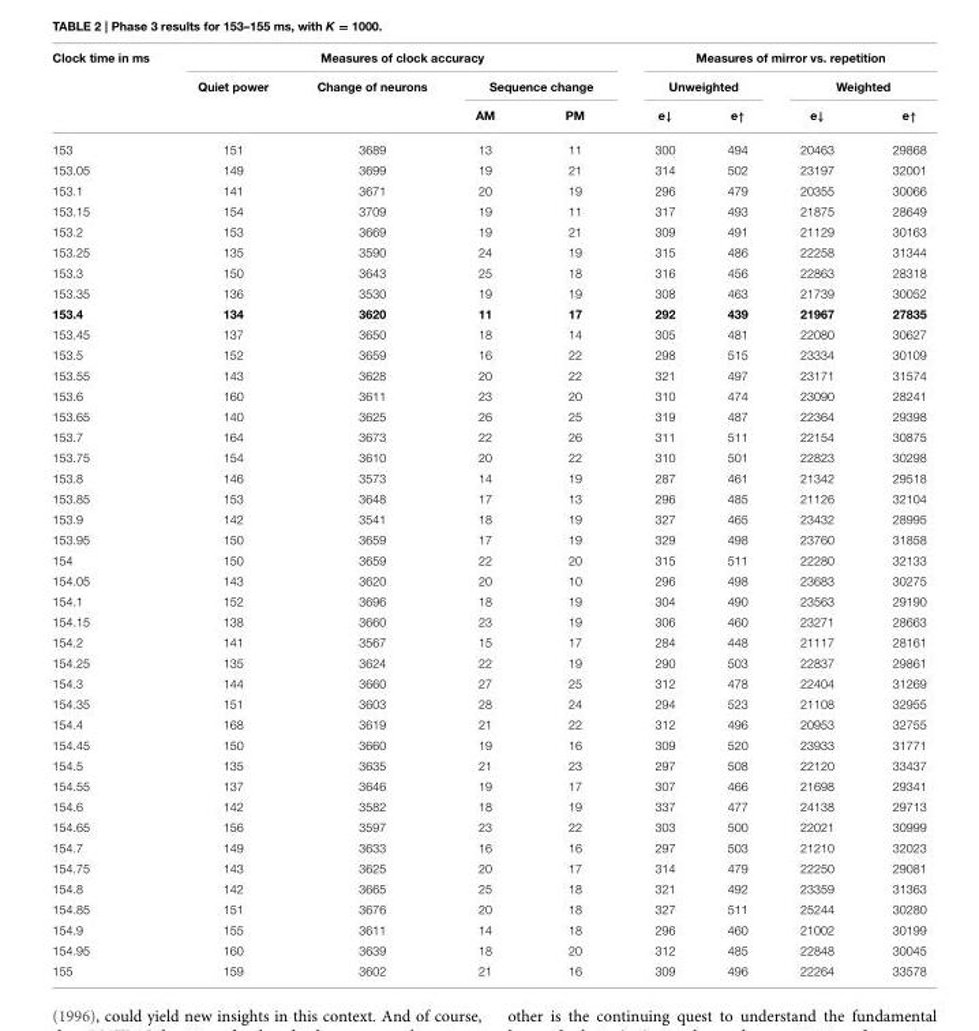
<table><thead><tr><td rowspan="3">Clock time in ms</td><td colspan="4">Measures of clock accuracy</td><td colspan="4">Measures of mirror vs. repetition</td></tr><tr><td rowspan="2">Quiet power</td><td rowspan="2">Change of neurons</td><td colspan="2">Sequence change</td><td colspan="2">Unweighted</td><td colspan="2">Weighted</td></tr><tr><td>AM</td><td>PM</td><td>e↓</td><td>e↑</td><td>e↓</td><td>e↑</td></tr></thead><tbody><tr><td>153</td><td>151</td><td>3689</td><td>13</td><td>11</td><td>300</td><td>494</td><td>20463</td><td>29868</td></tr><tr><td>153.05</td><td>149</td><td>3699</td><td>19</td><td>21</td><td>314</td><td>502</td><td>23197</td><td>32001</td></tr><tr><td>153.1</td><td>141</td><td>3671</td><td>20</td><td>19</td><td>296</td><td>479</td><td>20355</td><td>30066</td></tr><tr><td>153.15</td><td>154</td><td>3709</td><td>19</td><td>11</td><td>317</td><td>493</td><td>21875</td><td>28649</td></tr><tr><td>153.2</td><td>153</td><td>3669</td><td>19</td><td>21</td><td>309</td><td>491</td><td>21129</td><td>30163</td></tr><tr><td>153.25</td><td>135</td><td>3590</td><td>24</td><td>19</td><td>315</td><td>486</td><td>22258</td><td>31344</td></tr><tr><td>153.3</td><td>150</td><td>3643</td><td>25</td><td>18</td><td>316</td><td>456</td><td>22863</td><td>28318</td></tr><tr><td>153.35</td><td>136</td><td>3530</td><td>19</td><td>19</td><td>308</td><td>463</td><td>21739</td><td>30052</td></tr><tr><td>153.4</td><td>134</td><td>3620</td><td>11</td><td>17</td><td>292</td><td>439</td><td>21967</td><td>27835</td></tr><tr><td>153.45</td><td>137</td><td>3650</td><td>18</td><td>14</td><td>305</td><td>481</td><td>22080</td><td>30627</td></tr><tr><td>153.5</td><td>152</td><td>3659</td><td>16</td><td>22</td><td>298</td><td>515</td><td>23334</td><td>30109</td></tr><tr><td>153.55</td><td>143</td><td>3628</td><td>20</td><td>22</td><td>321</td><td>497</td><td>23171</td><td>31574</td></tr><tr><td>153.6</td><td>160</td><td>3611</td><td>23</td><td>20</td><td>310</td><td>474</td><td>23090</td><td>28241</td></tr><tr><td>153.65</td><td>140</td><td>3625</td><td>26</td><td>25</td><td>319</td><td>487</td><td>22364</td><td>29398</td></tr><tr><td>153.7</td><td>164</td><td>3673</td><td>22</td><td>26</td><td>311</td><td>511</td><td>22154</td><td>30875</td></tr><tr><td>153.75</td><td>154</td><td>3610</td><td>20</td><td>22</td><td>310</td><td>501</td><td>22823</td><td>30298</td></tr><tr><td>153.8</td><td>146</td><td>3573</td><td>14</td><td>19</td><td>287</td><td>461</td><td>21342</td><td>29518</td></tr><tr><td>153.85</td><td>153</td><td>3648</td><td>17</td><td>13</td><td>296</td><td>485</td><td>21126</td><td>32104</td></tr><tr><td>153.9</td><td>142</td><td>3541</td><td>18</td><td>19</td><td>327</td><td>465</td><td>23432</td><td>28995</td></tr><tr><td>153.95</td><td>150</td><td>3659</td><td>17</td><td>19</td><td>329</td><td>498</td><td>23760</td><td>31858</td></tr><tr><td>154</td><td>150</td><td>3659</td><td>22</td><td>20</td><td>315</td><td>511</td><td>22280</td><td>32133</td></tr><tr><td>154.05</td><td>143</td><td>3620</td><td>20</td><td>10</td><td>296</td><td>498</td><td>23683</td><td>30275</td></tr><tr><td>154.1</td><td>152</td><td>3696</td><td>18</td><td>19</td><td>304</td><td>490</td><td>23563</td><td>29190</td></tr><tr><td>154.15</td><td>138</td><td>3660</td><td>23</td><td>19</td><td>306</td><td>460</td><td>23271</td><td>28663</td></tr><tr><td>154.2</td><td>141</td><td>3567</td><td>15</td><td>17</td><td>284</td><td>448</td><td>21117</td><td>28161</td></tr><tr><td>154.25</td><td>135</td><td>3624</td><td>22</td><td>19</td><td>290</td><td>503</td><td>22837</td><td>29861</td></tr><tr><td>154.3</td><td>144</td><td>3660</td><td>27</td><td>25</td><td>312</td><td>478</td><td>22404</td><td>31269</td></tr><tr><td>154.35</td><td>151</td><td>3603</td><td>28</td><td>24</td><td>294</td><td>523</td><td>21108</td><td>32955</td></tr><tr><td>154.4</td><td>168</td><td>3619</td><td>21</td><td>22</td><td>312</td><td>496</td><td>20953</td><td>32755</td></tr><tr><td>154.45</td><td>150</td><td>3660</td><td>19</td><td>16</td><td>309</td><td>520</td><td>23933</td><td>31771</td></tr><tr><td>154.5</td><td>135</td><td>3635</td><td>21</td><td>23</td><td>297</td><td>508</td><td>22120</td><td>33437</td></tr><tr><td>154.55</td><td>137</td><td>3646</td><td>19</td><td>17</td><td>307</td><td>466</td><td>21698</td><td>29341</td></tr><tr><td>154.6</td><td>142</td><td>3582</td><td>18</td><td>19</td><td>337</td><td>477</td><td>24138</td><td>29713</td></tr><tr><td>154.65</td><td>156</td><td>3597</td><td>23</td><td>22</td><td>303</td><td>500</td><td>22021</td><td>30999</td></tr><tr><td>154.7</td><td>149</td><td>3633</td><td>16</td><td>16</td><td>297</td><td>503</td><td>21210</td><td>32023</td></tr><tr><td>154.75</td><td>143</td><td>3625</td><td>20</td><td>17</td><td>314</td><td>479</td><td>22250</td><td>29081</td></tr><tr><td>154.8</td><td>142</td><td>3665</td><td>25</td><td>18</td><td>321</td><td>492</td><td>23359</td><td>31363</td></tr><tr><td>154.85</td><td>151</td><td>3676</td><td>20</td><td>18</td><td>327</td><td>511</td><td>25244</td><td>30280</td></tr><tr><td>154.9</td><td>155</td><td>3611</td><td>14</td><td>18</td><td>296</td><td>460</td><td>21002</td><td>30199</td></tr><tr><td>154.95</td><td>160</td><td>3639</td><td>18</td><td>20</td><td>312</td><td>485</td><td>22848</td><td>30045</td></tr><tr><td>155</td><td>159</td><td>3602</td><td>21</td><td>16</td><td>309</td><td>496</td><td>22264</td><td>33578</td></tr></tbody></table>